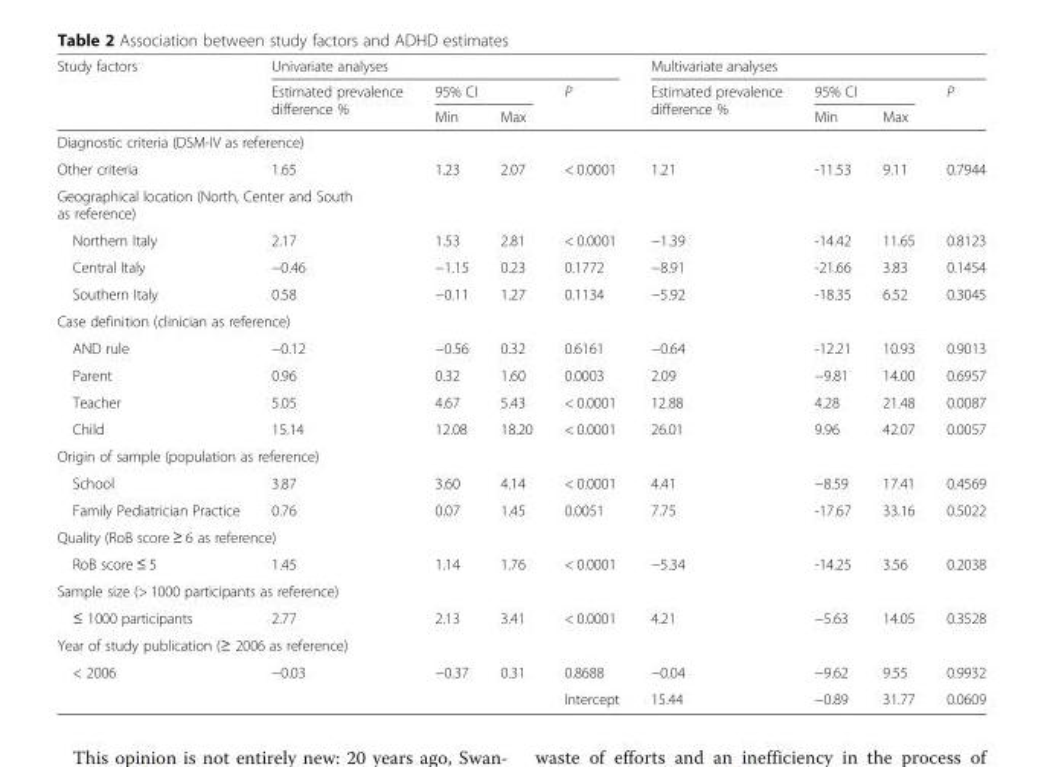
<table><thead><tr><td rowspan="3">Study factors</td><td colspan="4">Univariate analyses</td><td colspan="4">Multivariate analyses</td></tr><tr><td rowspan="2">Estimated prevalence difference %</td><td colspan="2">95% CI</td><td rowspan="2">P</td><td rowspan="2">Estimated prevalence difference %</td><td colspan="2">95% CI</td><td rowspan="2">P</td></tr><tr><td>Min</td><td>Max</td><td>Min</td><td>Max</td></tr></thead><tbody><tr><td colspan="9">Diagnostic criteria (DSM-IV as reference)</td></tr><tr><td>Other criteria</td><td>1.65</td><td>1.23</td><td>2.07</td><td>&lt; 0.0001</td><td>1.21</td><td>-11.53</td><td>9.11</td><td>0.7944</td></tr><tr><td colspan="9">Geographical location (North, Center and South as reference)</td></tr><tr><td>Northern Italy</td><td>2.17</td><td>1.53</td><td>2.81</td><td>&lt; 0.0001</td><td>−1.39</td><td>-14.42</td><td>11.65</td><td>0.8123</td></tr><tr><td>Central Italy</td><td>−0.46</td><td>−1.15</td><td>0.23</td><td>0.1772</td><td>−8.91</td><td>-21.66</td><td>3.83</td><td>0.1454</td></tr><tr><td>Southern Italy</td><td>0.58</td><td>−0.11</td><td>1.27</td><td>0.1134</td><td>−5.92</td><td>-18.35</td><td>6.52</td><td>0.3045</td></tr><tr><td colspan="9">Case definition (clinician as reference)</td></tr><tr><td>AND rule</td><td>−0.12</td><td>−0.56</td><td>0.32</td><td>0.6161</td><td>−0.64</td><td>-12.21</td><td>10.93</td><td>0.9013</td></tr><tr><td>Parent</td><td>0.96</td><td>0.32</td><td>1.60</td><td>0.0003</td><td>2.09</td><td>−9.81</td><td>14.00</td><td>0.6957</td></tr><tr><td>Teacher</td><td>5.05</td><td>4.67</td><td>5.43</td><td>&lt; 0.0001</td><td>12.88</td><td>4.28</td><td>21.48</td><td>0.0087</td></tr><tr><td>Child</td><td>15.14</td><td>12.08</td><td>18.20</td><td>&lt; 0.0001</td><td>26.01</td><td>9.96</td><td>42.07</td><td>0.0057</td></tr><tr><td colspan="9">Origin of sample (population as reference)</td></tr><tr><td>School</td><td>3.87</td><td>3.60</td><td>4.14</td><td>&lt; 0.0001</td><td>4.41</td><td>−8.59</td><td>17.41</td><td>0.4569</td></tr><tr><td>Family Pediatrician Practice</td><td>0.76</td><td>0.07</td><td>1.45</td><td>0.0051</td><td>7.75</td><td>-17.67</td><td>33.16</td><td>0.5022</td></tr><tr><td colspan="9">Quality (RoB score ≥ 6 as reference)</td></tr><tr><td>RoB score ≤ 5</td><td>1.45</td><td>1.14</td><td>1.76</td><td>&lt; 0.0001</td><td>−5.34</td><td>-14.25</td><td>3.56</td><td>0.2038</td></tr><tr><td colspan="9">Sample size (&gt; 1000 participants as reference)</td></tr><tr><td>≤ 1000 participants</td><td>2.77</td><td>2.13</td><td>3.41</td><td>&lt; 0.0001</td><td>4.21</td><td>−5.63</td><td>14.05</td><td>0.3528</td></tr><tr><td colspan="9">Year of study publication (≥ 2006 as reference)</td></tr><tr><td rowspan="2">&lt; 2006</td><td rowspan="2">−0.03</td><td rowspan="2">−0.37</td><td rowspan="2">0.31</td><td>0.8688</td><td>−0.04</td><td>−9.62</td><td>9.55</td><td>0.9932</td></tr><tr><td>Intercept</td><td>15.44</td><td>−0.89</td><td>31.77</td><td>0.0609</td></tr></tbody></table>